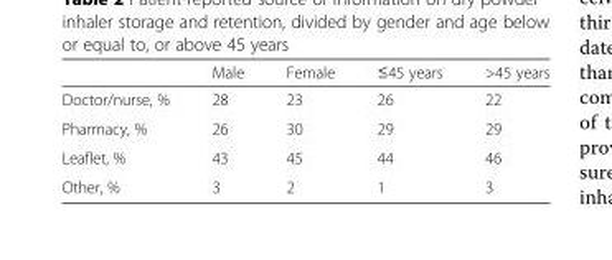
<table><thead><tr><td></td><td>Male</td><td>Female</td><td>≤45 years</td><td>&gt;45 years</td></tr></thead><tbody><tr><td>Doctor/nurse, %</td><td>28</td><td>23</td><td>26</td><td>22</td></tr><tr><td>Pharmacy, %</td><td>26</td><td>30</td><td>29</td><td>29</td></tr><tr><td>Leaflet, %</td><td>43</td><td>45</td><td>44</td><td>46</td></tr><tr><td>Other, %</td><td>3</td><td>2</td><td>1</td><td>3</td></tr></tbody></table>